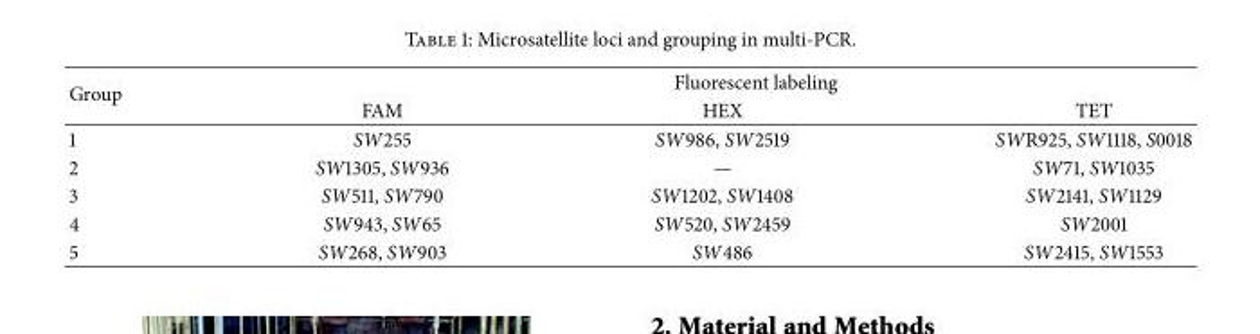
<table><thead><tr><td rowspan="2">Group</td><td colspan="3">Fluorescent labeling</td></tr><tr><td>FAM</td><td>HEX</td><td>TET</td></tr></thead><tbody><tr><td>1</td><td>SW255</td><td>SW986, SW2519</td><td>SWR925, SW1118, S0018</td></tr><tr><td>2</td><td>SW1305, SW936</td><td>—</td><td>SW71, SW1035</td></tr><tr><td>3</td><td>SW511, SW790</td><td>SW1202, SW1408</td><td>SW2141, SW1129</td></tr><tr><td>4</td><td>SW943, SW65</td><td>SW520, SW2459</td><td>SW2001</td></tr><tr><td>5</td><td>SW268, SW903</td><td>SW486</td><td>SW2415, SW1553</td></tr></tbody></table>